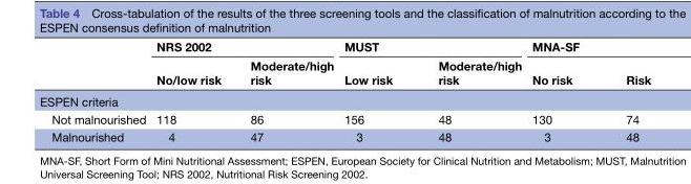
<table><thead><tr><td rowspan="2"></td><td colspan="2">NRS 2002</td><td colspan="2">MUST</td><td colspan="2">MNA-SF</td></tr><tr><td>No/low risk</td><td>Moderate/high risk</td><td>Low risk</td><td>Moderate/high risk</td><td>No risk</td><td>Risk</td></tr></thead><tbody><tr><td colspan="7">ESPEN criteria</td></tr><tr><td>Not malnourished</td><td>118</td><td>86</td><td>156</td><td>48</td><td>130</td><td>74</td></tr><tr><td>Malnourished</td><td>4</td><td>47</td><td>3</td><td>48</td><td>3</td><td>48</td></tr></tbody></table>